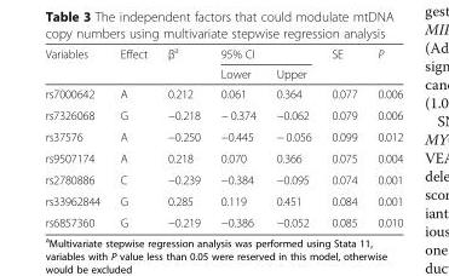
<table><thead><tr><td rowspan="2">Variables</td><td rowspan="2">Effect</td><td rowspan="2">β<sup>a</sup></td><td colspan="2">95% CI</td><td rowspan="2">SE</td><td rowspan="2">P</td></tr><tr><td>Lower</td><td>Upper</td></tr></thead><tbody><tr><td>rs7000642</td><td>A</td><td>0.212</td><td>0.061</td><td>0.364</td><td>0.077</td><td>0.006</td></tr><tr><td>rs7326068</td><td>G</td><td>−0.218</td><td>− 0.374</td><td>−0.062</td><td>0.079</td><td>0.006</td></tr><tr><td>rs37576</td><td>A</td><td>−0.250</td><td>−0.445</td><td>− 0.056</td><td>0.099</td><td>0.012</td></tr><tr><td>rs9507174</td><td>A</td><td>0.218</td><td>0.070</td><td>0.366</td><td>0.075</td><td>0.004</td></tr><tr><td>rs2780886</td><td>C</td><td>−0.239</td><td>−0.384</td><td>−0.095</td><td>0.074</td><td>0.001</td></tr><tr><td>rs33962844</td><td>G</td><td>0.285</td><td>0.119</td><td>0.451</td><td>0.084</td><td>0.001</td></tr><tr><td>rs6857360</td><td>G</td><td>−0.219</td><td>−0.386</td><td>−0.052</td><td>0.085</td><td>0.010</td></tr></tbody></table>